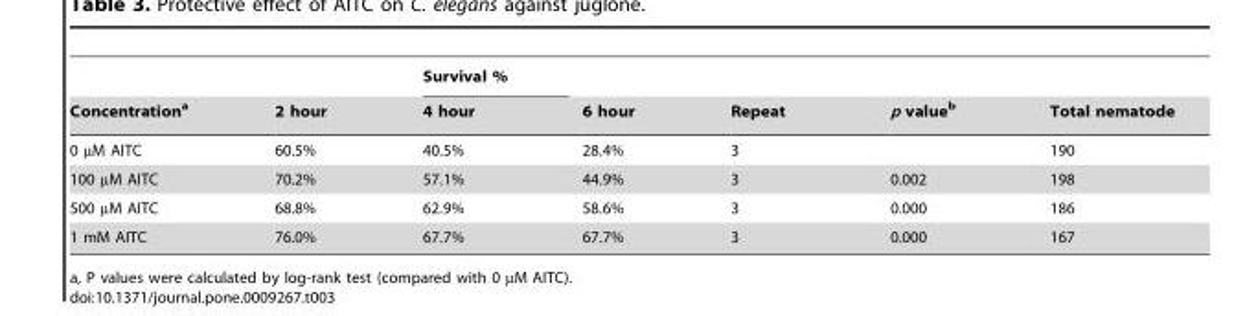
<table><thead><tr><td rowspan="2">Concentration<sup>a</sup></td><td rowspan="2">2 hour</td><td rowspan="2">Survival % 4 hour</td><td rowspan="2">6 hour</td><td rowspan="2">Repeat</td><td rowspan="2">p value<sup>b</sup></td><td rowspan="2">Total nematode</td></tr><tr></tr></thead><tbody><tr><td>0 µM AITC</td><td>60.5%</td><td>40.5%</td><td>28.4%</td><td>3</td><td></td><td>190</td></tr><tr><td>100 µM AITC</td><td>70.2%</td><td>57.1%</td><td>44.9%</td><td>3</td><td>0.002</td><td>198</td></tr><tr><td>500 µM AITC</td><td>68.8%</td><td>62.9%</td><td>58.6%</td><td>3</td><td>0.000</td><td>186</td></tr><tr><td>1 mM AITC</td><td>76.0%</td><td>67.7%</td><td>67.7%</td><td>3</td><td>0.000</td><td>167</td></tr></tbody></table>